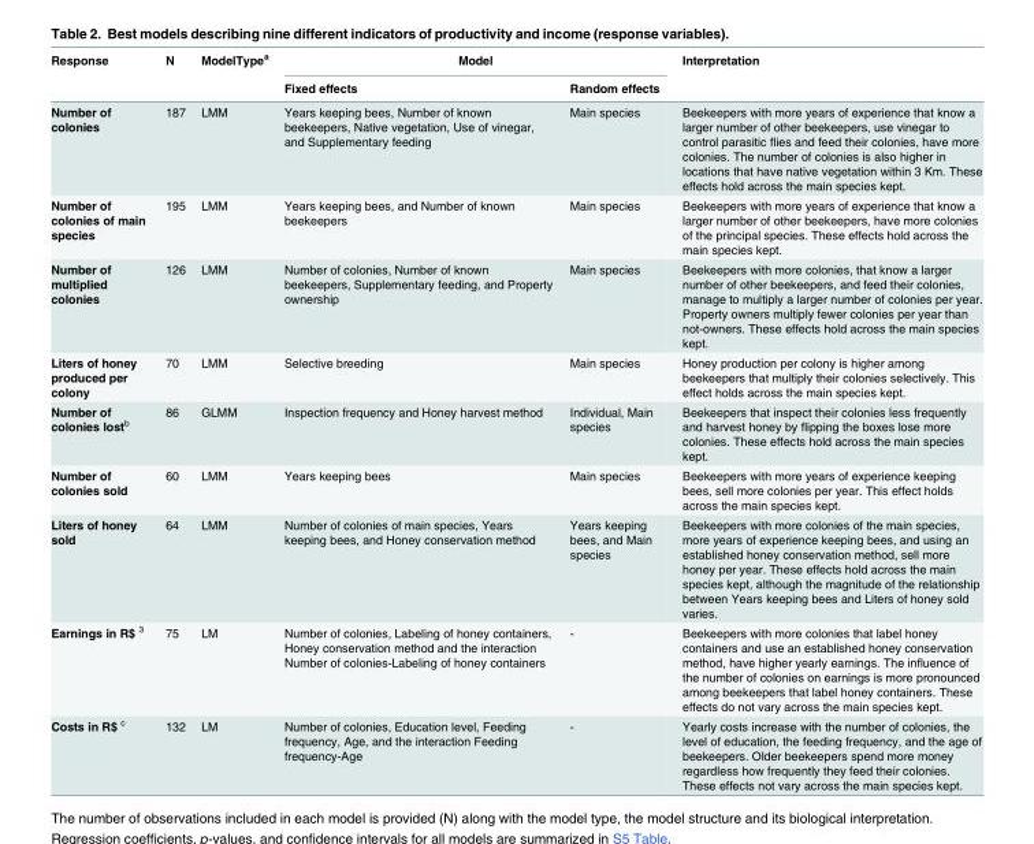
<table><thead><tr><td rowspan="2">Response</td><td rowspan="2">N</td><td rowspan="2">ModelType<sup>a</sup></td><td colspan="2">Model</td><td rowspan="2">Interpretation</td></tr><tr><td>Fixed effects</td><td>Random effects</td></tr></thead><tbody><tr><td>Number of colonies</td><td>187</td><td>LMM</td><td>Years keeping bees, Number of known beekeepers, Native vegetation, Use of vinegar, and Supplementary feeding</td><td>Main species</td><td>Beekeepers with more years of experience that know a larger number of other beekeepers, use vinegar to control parasitic flies and feed their colonies, have more colonies. The number of colonies is also higher in locations that have native vegetation within 3 Km. These effects hold across the main species kept.</td></tr><tr><td>Number of colonies of main species</td><td>195</td><td>LMM</td><td>Years keeping bees, and Number of known beekeepers</td><td>Main species</td><td>Beekeepers with more years of experience that know a larger number of other beekeepers, have more colonies of the principal species. These effects hold across the main species kept.</td></tr><tr><td>Number of multiplied colonies</td><td>126</td><td>LMM</td><td>Number of colonies, Number of known beekeepers, Supplementary feeding, and Property ownership</td><td>Main species</td><td>Beekeepers with more colonies, that know a larger number of other beekeepers, and feed their colonies, manage to multiply a larger number of colonies per year. Property owners multiply fewer colonies per year than not-owners. These effects hold across the main species kept.</td></tr><tr><td>Liters of honey produced per colony</td><td>70</td><td>LMM</td><td>Selective breeding</td><td>Main species</td><td>Honey production per colony is higher among beekeepers that multiply their colonies selectively. This effect holds across the main species kept.</td></tr><tr><td>Number of colonies lost<sup>b</sup></td><td>86</td><td>GLMM</td><td>Inspection frequency and Honey harvest method</td><td>Individual, Main species</td><td>Beekeepers that inspect their colonies less frequently and harvest honey by flipping the boxes lose more colonies. These effects hold across the main species kept.</td></tr><tr><td>Number of colonies sold</td><td>60</td><td>LMM</td><td>Years keeping bees</td><td>Main species</td><td>Beekeepers with more years of experience keeping bees, sell more colonies per year. This effect holds across the main species kept.</td></tr><tr><td>Liters of honey sold</td><td>64</td><td>LMM</td><td>Number of colonies of main species, Years keeping bees, and Honey conservation method</td><td>Years keeping bees, and Main species</td><td>Beekeepers with more colonies of the main species, more years of experience keeping bees, and using an established honey conservation method, sell more honey per year. These effects hold across the main species kept, although the magnitude of the relationship between Years keeping bees and Liters of honey sold varies.</td></tr><tr><td>Earnings in R$ <sup>3</sup></td><td>75</td><td>LM</td><td>Number of colonies, Labeling of honey containers, Honey conservation method and the interaction Number of colonies-Labeling of honey containers</td><td>-</td><td>Beekeepers with more colonies that label honey containers and use an established honey conservation method, have higher yearly earnings. The influence of the number of colonies on earnings is more pronounced among beekeepers that label honey containers. These effects do not vary across the main species kept.</td></tr><tr><td>Costs in R$ <sup>c</sup></td><td>132</td><td>LM</td><td>Number of colonies, Education level, Feeding frequency, Age, and the interaction Feeding frequency-Age</td><td>-</td><td>Yearly costs increase with the number of colonies, the level of education, the feeding frequency, and the age of beekeepers. Older beekeepers spend more money regardless how frequently they feed their colonies. These effects not vary across the main species kept.</td></tr></tbody></table>